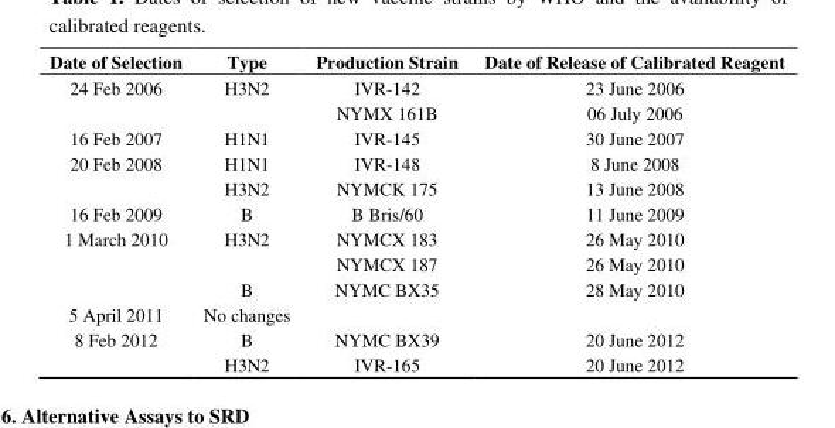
<table><thead><tr><td>Date of Selection</td><td>Type</td><td>Production Strain</td><td>Date of Release of Calibrated Reagent</td></tr></thead><tbody><tr><td rowspan="2">24 Feb 2006</td><td>H3N2</td><td>IVR-142</td><td>23 June 2006</td></tr><tr><td></td><td>NYMX 161B</td><td>06 July 2006</td></tr><tr><td>16 Feb 2007</td><td>H1N1</td><td>IVR-145</td><td>30 June 2007</td></tr><tr><td rowspan="2">20 Feb 2008</td><td>H1N1</td><td>IVR-148</td><td>8 June 2008</td></tr><tr><td>H3N2</td><td>NYMCK 175</td><td>13 June 2008</td></tr><tr><td>16 Feb 2009</td><td>B</td><td>B Bris/60</td><td>11 June 2009</td></tr><tr><td rowspan="3">1 March 2010</td><td>H3N2</td><td>NYMCX 183</td><td>26 May 2010</td></tr><tr><td></td><td>NYMCX 187</td><td>26 May 2010</td></tr><tr><td>B</td><td>NYMC BX35</td><td>28 May 2010</td></tr><tr><td>5 April 2011</td><td>No changes</td><td></td><td></td></tr><tr><td rowspan="2">8 Feb 2012</td><td>B</td><td>NYMC BX39</td><td>20 June 2012</td></tr><tr><td>H3N2</td><td>IVR-165</td><td>20 June 2012</td></tr></tbody></table>